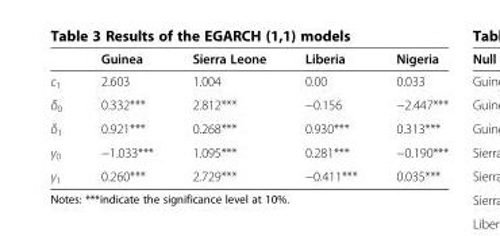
<table><thead><tr><td></td><td>Guinea</td><td>Sierra Leone</td><td>Liberia</td><td>Nigeria</td></tr></thead><tbody><tr><td>c<sub>1</sub></td><td>2.603</td><td>1.004</td><td>0.00</td><td>0.033</td></tr><tr><td>δ<sub>0</sub></td><td>0.332***</td><td>2.812***</td><td>−0.156</td><td>−2.447***</td></tr><tr><td>δ<sub>1</sub></td><td>0.921***</td><td>0.268***</td><td>0.930***</td><td>0.313***</td></tr><tr><td>γ<sub>0</sub></td><td>−1.033***</td><td>1.095***</td><td>0.281***</td><td>−0.190***</td></tr><tr><td>γ<sub>1</sub></td><td>0.260***</td><td>2.729***</td><td>−0.411***</td><td>0.035***</td></tr></tbody></table>